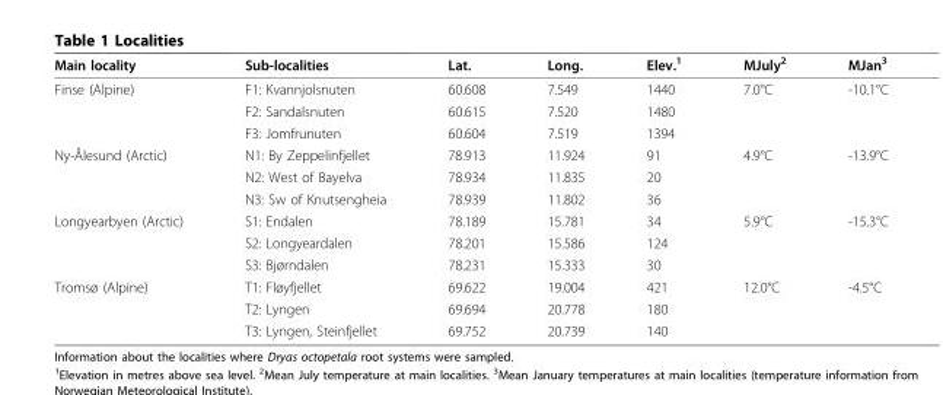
<table><thead><tr><td>Main locality</td><td>Sub-localities</td><td>Lat.</td><td>Long.</td><td>Elev.<sup>1</sup></td><td>MJuly<sup>2</sup></td><td>MJan<sup>3</sup></td></tr></thead><tbody><tr><td rowspan="3">Finse (Alpine)</td><td>F1: Kvannjolsnuten</td><td>60.608</td><td>7.549</td><td>1440</td><td>7.0°C</td><td>-10.1°C</td></tr><tr><td>F2: Sandalsnuten</td><td>60.615</td><td>7.520</td><td>1480</td><td></td><td></td></tr><tr><td>F3: Jomfrunuten</td><td>60.604</td><td>7.519</td><td>1394</td><td></td><td></td></tr><tr><td rowspan="3">Ny-Ålesund (Arctic)</td><td>N1: By Zeppelinfjellet</td><td>78.913</td><td>11.924</td><td>91</td><td>4.9°C</td><td>-13.9°C</td></tr><tr><td>N2: West of Bayelva</td><td>78.934</td><td>11.835</td><td>20</td><td></td><td></td></tr><tr><td>N3: Sw of Knutsengheia</td><td>78.939</td><td>11.802</td><td>36</td><td></td><td></td></tr><tr><td rowspan="3">Longyearbyen (Arctic)</td><td>S1: Endalen</td><td>78.189</td><td>15.781</td><td>34</td><td>5.9°C</td><td>-15.3°C</td></tr><tr><td>S2: Longyeardalen</td><td>78.201</td><td>15.586</td><td>124</td><td></td><td></td></tr><tr><td>S3: Bjørndalen</td><td>78.231</td><td>15.333</td><td>30</td><td></td><td></td></tr><tr><td rowspan="3">Tromsø (Alpine)</td><td>T1: Fløyfjellet</td><td>69.622</td><td>19.004</td><td>421</td><td>12.0°C</td><td>-4.5°C</td></tr><tr><td>T2: Lyngen</td><td>69.694</td><td>20.778</td><td>180</td><td></td><td></td></tr><tr><td>T3: Lyngen, Steinfjellet</td><td>69.752</td><td>20.739</td><td>140</td><td></td><td></td></tr></tbody></table>